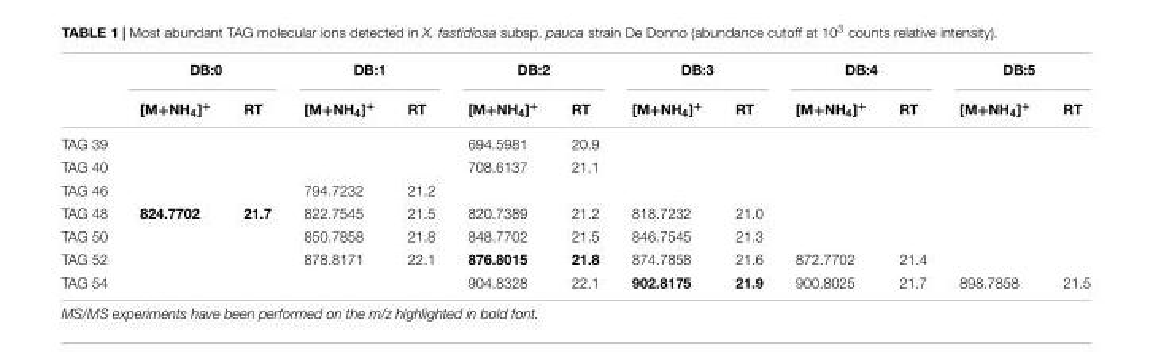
<table><thead><tr><td rowspan="2"></td><td colspan="2">DB:0</td><td colspan="2">DB:1</td><td colspan="2">DB:2</td><td colspan="2">DB:3</td><td colspan="2">DB:4</td><td colspan="2">DB:5</td></tr><tr><td>[M+NH<sub>4</sub>]<sup>+</sup></td><td>RT</td><td>[M+NH<sub>4</sub>]<sup>+</sup></td><td>RT</td><td>[M+NH<sub>4</sub>]<sup>+</sup></td><td>RT</td><td>[M+NH<sub>4</sub>]<sup>+</sup></td><td>RT</td><td>[M+NH<sub>4</sub>]<sup>+</sup></td><td>RT</td><td>[M+NH<sub>4</sub>]<sup>+</sup></td><td>RT</td></tr></thead><tbody><tr><td>TAG 39</td><td></td><td></td><td></td><td></td><td>694.5981</td><td>20.9</td><td></td><td></td><td></td><td></td><td></td><td></td></tr><tr><td>TAG 40</td><td></td><td></td><td></td><td></td><td>708.6137</td><td>21.1</td><td></td><td></td><td></td><td></td><td></td><td></td></tr><tr><td>TAG 46</td><td></td><td></td><td>794.7232</td><td>21.2</td><td></td><td></td><td></td><td></td><td></td><td></td><td></td><td></td></tr><tr><td>TAG 48</td><td>824.7702</td><td>21.7</td><td>822.7545</td><td>21.5</td><td>820.7389</td><td>21.2</td><td>818.7232</td><td>21.0</td><td></td><td></td><td></td><td></td></tr><tr><td>TAG 50</td><td></td><td></td><td>850.7858</td><td>21.8</td><td>848.7702</td><td>21.5</td><td>846.7545</td><td>21.3</td><td></td><td></td><td></td><td></td></tr><tr><td>TAG 52</td><td></td><td></td><td>878.8171</td><td>22.1</td><td>876.8015</td><td>21.8</td><td>874.7858</td><td>21.6</td><td>872.7702</td><td>21.4</td><td></td><td></td></tr><tr><td>TAG 54</td><td></td><td></td><td></td><td></td><td>904.8328</td><td>22.1</td><td>902.8175</td><td>21.9</td><td>900.8025</td><td>21.7</td><td>898.7858</td><td>21.5</td></tr></tbody></table>